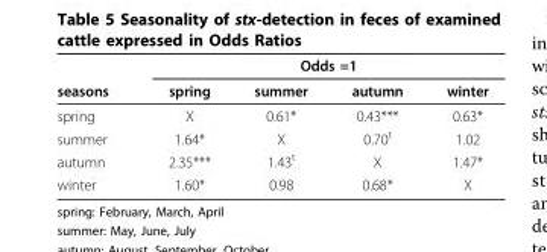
<table><thead><tr><td rowspan="2">seasons</td><td colspan="4">Odds =1</td></tr><tr><td>spring</td><td>summer</td><td>autumn</td><td>winter</td></tr></thead><tbody><tr><td>spring</td><td>X</td><td>0.61*</td><td>0.43***</td><td>0.63*</td></tr><tr><td>summer</td><td>1.64*</td><td>X</td><td>0.70<sup>t</sup></td><td>1.02</td></tr><tr><td>autumn</td><td>2.35***</td><td>1.43<sup>t</sup></td><td>X</td><td>1.47*</td></tr><tr><td>winter</td><td>1.60*</td><td>0.98</td><td>0.68*</td><td>X</td></tr></tbody></table>